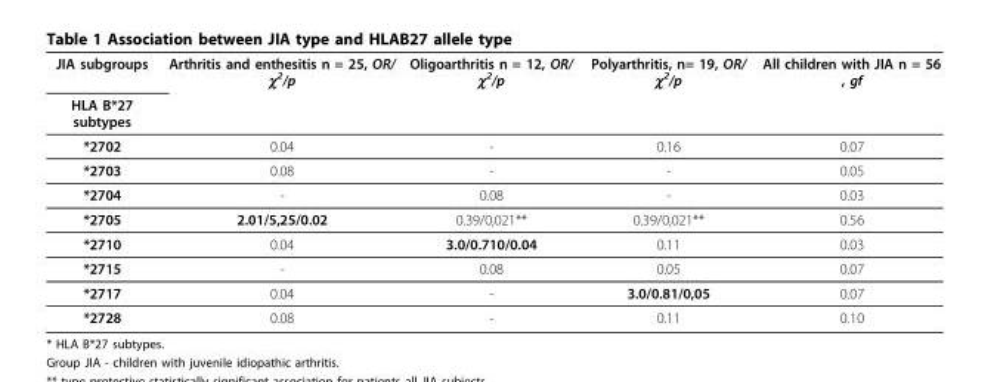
<table><thead><tr><td rowspan="2">JIA subgroups HLA B*27 subtypes</td><td rowspan="2">Arthritis and enthesitis n = 25, OR/ χ<sup>2</sup>/p</td><td rowspan="2">Oligoarthritis n = 12, OR/ χ<sup>2</sup>/p</td><td rowspan="2">Polyarthritis, n= 19, OR/ χ<sup>2</sup>/p</td><td rowspan="2">All children with JIA n = 56 , gf</td></tr><tr></tr></thead><tbody><tr><td>*2702</td><td>0.04</td><td>-</td><td>0.16</td><td>0.07</td></tr><tr><td>*2703</td><td>0.08</td><td>-</td><td>-</td><td>0.05</td></tr><tr><td>*2704</td><td>-</td><td>0.08</td><td>-</td><td>0.03</td></tr><tr><td>*2705</td><td>2.01/5,25/0.02</td><td>0.39/0,021**</td><td>0.39/0,021**</td><td>0.56</td></tr><tr><td>*2710</td><td>0.04</td><td>3.0/0.710/0.04</td><td>0.11</td><td>0.03</td></tr><tr><td>*2715</td><td>-</td><td>0.08</td><td>0.05</td><td>0.07</td></tr><tr><td>*2717</td><td>0.04</td><td>-</td><td>3.0/0.81/0,05</td><td>0.07</td></tr><tr><td>*2728</td><td>0.08</td><td>-</td><td>0.11</td><td>0.10</td></tr></tbody></table>